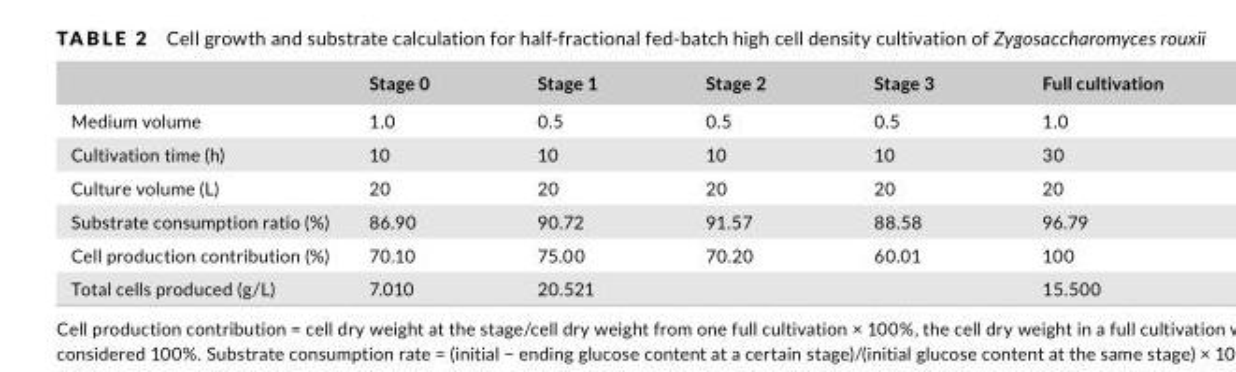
<table><thead><tr><td></td><td>Stage 0</td><td>Stage 1</td><td>Stage 2</td><td>Stage 3</td><td>Full cultivation</td></tr></thead><tbody><tr><td>Medium volume</td><td>1.0</td><td>0.5</td><td>0.5</td><td>0.5</td><td>1.0</td></tr><tr><td>Cultivation time (h)</td><td>10</td><td>10</td><td>10</td><td>10</td><td>30</td></tr><tr><td>Culture volume (L)</td><td>20</td><td>20</td><td>20</td><td>20</td><td>20</td></tr><tr><td>Substrate consumption ratio (%)</td><td>86.90</td><td>90.72</td><td>91.57</td><td>88.58</td><td>96.79</td></tr><tr><td>Cell production contribution (%)</td><td>70.10</td><td>75.00</td><td>70.20</td><td>60.01</td><td>100</td></tr><tr><td>Total cells produced (g/L)</td><td>7.010</td><td colspan="3">20.521</td><td>15.500</td></tr></tbody></table>